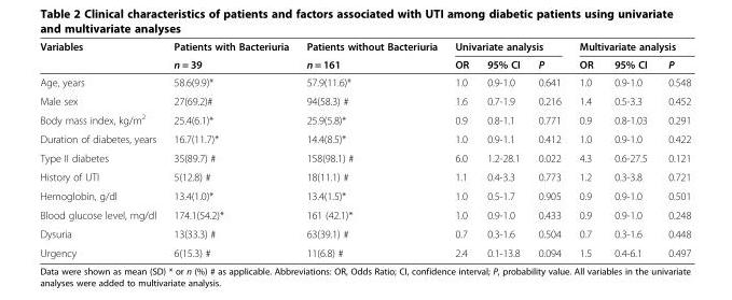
<table><thead><tr><td rowspan="2">Variables</td><td rowspan="2">Patients with Bacteriuria n = 39</td><td rowspan="2">Patients without Bacteriuria n = 161</td><td colspan="3">Univariate analysis</td><td colspan="3">Multivariate analysis</td></tr><tr><td>OR</td><td>95% CI</td><td>P</td><td>OR</td><td>95% CI</td><td>P</td></tr></thead><tbody><tr><td>Age, years</td><td>58.6(9.9)*</td><td>57.9(11.6)*</td><td>1.0</td><td>0.9-1.0</td><td>0.641</td><td>1.0</td><td>0.9-1.0</td><td>0.548</td></tr><tr><td>Male sex</td><td>27(69.2)#</td><td>94(58.3) #</td><td>1.6</td><td>0.7-1.9</td><td>0.216</td><td>1.4</td><td>0.5-3.3</td><td>0.452</td></tr><tr><td>Body mass index, kg/m<sup>2</sup></td><td>25.4(6.1)*</td><td>25.9(5.8)*</td><td>0.9</td><td>0.8-1.1</td><td>0.771</td><td>0.9</td><td>0.8-1.03</td><td>0.291</td></tr><tr><td>Duration of diabetes, years</td><td>16.7(11.7)*</td><td>14.4(8.5)*</td><td>1.0</td><td>0.9-1.1</td><td>0.412</td><td>1.0</td><td>0.9-1.0</td><td>0.422</td></tr><tr><td>Type II diabetes</td><td>35(89.7) #</td><td>158(98.1) #</td><td>6.0</td><td>1.2-28.1</td><td>0.022</td><td>4.3</td><td>0.6-27.5</td><td>0.121</td></tr><tr><td>History of UTI</td><td>5(12.8) #</td><td>18(11.1) #</td><td>1.1</td><td>0.4-3.3</td><td>0.773</td><td>1.2</td><td>0.3-3.8</td><td>0.721</td></tr><tr><td>Hemoglobin, g/dl</td><td>13.4(1.0)*</td><td>13.4(1.5)*</td><td>1.0</td><td>0.5-1.7</td><td>0.905</td><td>0.9</td><td>0.9-1.0</td><td>0.501</td></tr><tr><td>Blood glucose level, mg/dl</td><td>174.1(54.2)*</td><td>161 (42.1)*</td><td>1.0</td><td>0.9-1.0</td><td>0.433</td><td>0.9</td><td>0.9-1.0</td><td>0.248</td></tr><tr><td>Dysuria</td><td>13(33.3) #</td><td>63(39.1) #</td><td>0.7</td><td>0.3-1.6</td><td>0.504</td><td>0.7</td><td>0.3-1.6</td><td>0.448</td></tr><tr><td>Urgency</td><td>6(15.3) #</td><td>11(6.8) #</td><td>2.4</td><td>0.1-13.8</td><td>0.094</td><td>1.5</td><td>0.4-6.1</td><td>0.497</td></tr></tbody></table>